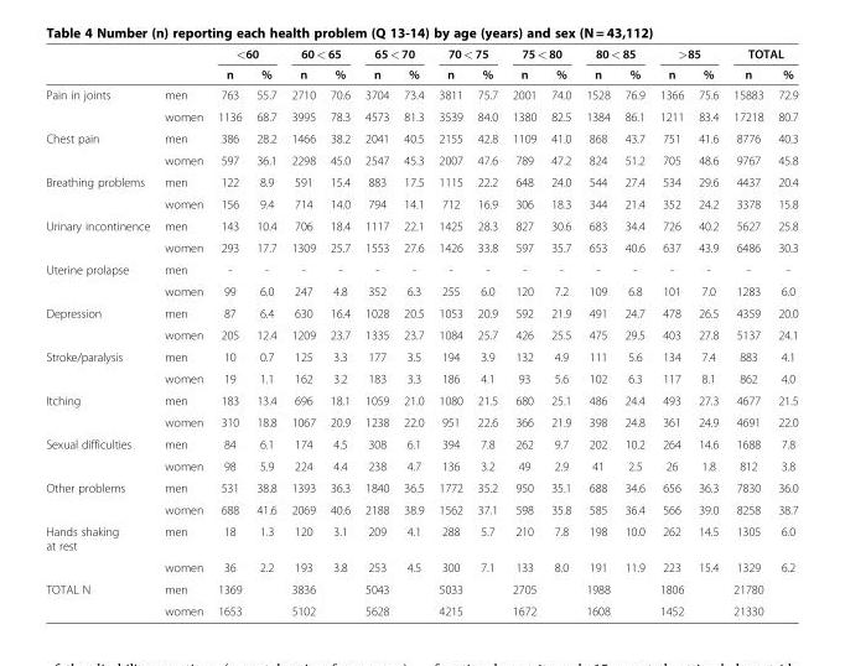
<table><thead><tr><td rowspan="2"></td><td rowspan="2"></td><td colspan="2">&lt;60</td><td colspan="2">60 &lt; 65</td><td colspan="2">65 &lt; 70</td><td colspan="2">70 &lt; 75</td><td colspan="2">75 &lt; 80</td><td colspan="2">80 &lt; 85</td><td colspan="2">&gt;85</td><td colspan="2">TOTAL</td></tr><tr><td>n</td><td>%</td><td>n</td><td>%</td><td>n</td><td>%</td><td>n</td><td>%</td><td>n</td><td>%</td><td>n</td><td>%</td><td>n</td><td>%</td><td>n</td><td>%</td></tr></thead><tbody><tr><td rowspan="2">Pain in joints</td><td>men</td><td>763</td><td>55.7</td><td>2710</td><td>70.6</td><td>3704</td><td>73.4</td><td>3811</td><td>75.7</td><td>2001</td><td>74.0</td><td>1528</td><td>76.9</td><td>1366</td><td>75.6</td><td>15883</td><td>72.9</td></tr><tr><td>women</td><td>1136</td><td>68.7</td><td>3995</td><td>78.3</td><td>4573</td><td>81.3</td><td>3539</td><td>84.0</td><td>1380</td><td>82.5</td><td>1384</td><td>86.1</td><td>1211</td><td>83.4</td><td>17218</td><td>80.7</td></tr><tr><td rowspan="2">Chest pain</td><td>men</td><td>386</td><td>28.2</td><td>1466</td><td>38.2</td><td>2041</td><td>40.5</td><td>2155</td><td>42.8</td><td>1109</td><td>41.0</td><td>868</td><td>43.7</td><td>751</td><td>41.6</td><td>8776</td><td>40.3</td></tr><tr><td>women</td><td>597</td><td>36.1</td><td>2298</td><td>45.0</td><td>2547</td><td>45.3</td><td>2007</td><td>47.6</td><td>789</td><td>47.2</td><td>824</td><td>51.2</td><td>705</td><td>48.6</td><td>9767</td><td>45.8</td></tr><tr><td rowspan="2">Breathing problems</td><td>men</td><td>122</td><td>8.9</td><td>591</td><td>15.4</td><td>883</td><td>17.5</td><td>1115</td><td>22.2</td><td>648</td><td>24.0</td><td>544</td><td>27.4</td><td>534</td><td>29.6</td><td>4437</td><td>20.4</td></tr><tr><td>women</td><td>156</td><td>9.4</td><td>714</td><td>14.0</td><td>794</td><td>14.1</td><td>712</td><td>16.9</td><td>306</td><td>18.3</td><td>344</td><td>21.4</td><td>352</td><td>24.2</td><td>3378</td><td>15.8</td></tr><tr><td rowspan="2">Urinary incontinence</td><td>men</td><td>143</td><td>10.4</td><td>706</td><td>18.4</td><td>1117</td><td>22.1</td><td>1425</td><td>28.3</td><td>827</td><td>30.6</td><td>683</td><td>34.4</td><td>726</td><td>40.2</td><td>5627</td><td>25.8</td></tr><tr><td>women</td><td>293</td><td>17.7</td><td>1309</td><td>25.7</td><td>1553</td><td>27.6</td><td>1426</td><td>33.8</td><td>597</td><td>35.7</td><td>653</td><td>40.6</td><td>637</td><td>43.9</td><td>6486</td><td>30.3</td></tr><tr><td rowspan="2">Uterine prolapse</td><td>men</td><td>-</td><td>-</td><td>-</td><td>-</td><td>-</td><td>-</td><td>-</td><td>-</td><td>-</td><td>-</td><td>-</td><td>-</td><td>-</td><td>-</td><td>-</td><td>-</td></tr><tr><td>women</td><td>99</td><td>6.0</td><td>247</td><td>4.8</td><td>352</td><td>6.3</td><td>255</td><td>6.0</td><td>120</td><td>7.2</td><td>109</td><td>6.8</td><td>101</td><td>7.0</td><td>1283</td><td>6.0</td></tr><tr><td rowspan="2">Depression</td><td>men</td><td>87</td><td>6.4</td><td>630</td><td>16.4</td><td>1028</td><td>20.5</td><td>1053</td><td>20.9</td><td>592</td><td>21.9</td><td>491</td><td>24.7</td><td>478</td><td>26.5</td><td>4359</td><td>20.0</td></tr><tr><td>women</td><td>205</td><td>12.4</td><td>1209</td><td>23.7</td><td>1335</td><td>23.7</td><td>1084</td><td>25.7</td><td>426</td><td>25.5</td><td>475</td><td>29.5</td><td>403</td><td>27.8</td><td>5137</td><td>24.1</td></tr><tr><td rowspan="2">Stroke/paralysis</td><td>men</td><td>10</td><td>0.7</td><td>125</td><td>3.3</td><td>177</td><td>3.5</td><td>194</td><td>3.9</td><td>132</td><td>4.9</td><td>111</td><td>5.6</td><td>134</td><td>7.4</td><td>883</td><td>4.1</td></tr><tr><td>women</td><td>19</td><td>1.1</td><td>162</td><td>3.2</td><td>183</td><td>3.3</td><td>186</td><td>4.1</td><td>93</td><td>5.6</td><td>102</td><td>6.3</td><td>117</td><td>8.1</td><td>862</td><td>4.0</td></tr><tr><td rowspan="2">Itching</td><td>men</td><td>183</td><td>13.4</td><td>696</td><td>18.1</td><td>1059</td><td>21.0</td><td>1080</td><td>21.5</td><td>680</td><td>25.1</td><td>486</td><td>24.4</td><td>493</td><td>27.3</td><td>4677</td><td>21.5</td></tr><tr><td>women</td><td>310</td><td>18.8</td><td>1067</td><td>20.9</td><td>1238</td><td>22.0</td><td>951</td><td>22.6</td><td>366</td><td>21.9</td><td>398</td><td>24.8</td><td>361</td><td>24.9</td><td>4691</td><td>22.0</td></tr><tr><td rowspan="2">Sexual difficulties</td><td>men</td><td>84</td><td>6.1</td><td>174</td><td>4.5</td><td>308</td><td>6.1</td><td>394</td><td>7.8</td><td>262</td><td>9.7</td><td>202</td><td>10.2</td><td>264</td><td>14.6</td><td>1688</td><td>7.8</td></tr><tr><td>women</td><td>98</td><td>5.9</td><td>224</td><td>4.4</td><td>238</td><td>4.7</td><td>136</td><td>3.2</td><td>49</td><td>2.9</td><td>41</td><td>2.5</td><td>26</td><td>1.8</td><td>812</td><td>3.8</td></tr><tr><td rowspan="2">Other problems</td><td>men</td><td>531</td><td>38.8</td><td>1393</td><td>36.3</td><td>1840</td><td>36.5</td><td>1772</td><td>35.2</td><td>950</td><td>35.1</td><td>688</td><td>34.6</td><td>656</td><td>36.3</td><td>7830</td><td>36.0</td></tr><tr><td>women</td><td>688</td><td>41.6</td><td>2069</td><td>40.6</td><td>2188</td><td>38.9</td><td>1562</td><td>37.1</td><td>598</td><td>35.8</td><td>585</td><td>36.4</td><td>566</td><td>39.0</td><td>8258</td><td>38.7</td></tr><tr><td rowspan="2">Hands shaking at rest</td><td>men</td><td>18</td><td>1.3</td><td>120</td><td>3.1</td><td>209</td><td>4.1</td><td>288</td><td>5.7</td><td>210</td><td>7.8</td><td>198</td><td>10.0</td><td>262</td><td>14.5</td><td>1305</td><td>6.0</td></tr><tr><td>women</td><td>36</td><td>2.2</td><td>193</td><td>3.8</td><td>253</td><td>4.5</td><td>300</td><td>7.1</td><td>133</td><td>8.0</td><td>191</td><td>11.9</td><td>223</td><td>15.4</td><td>1329</td><td>6.2</td></tr><tr><td rowspan="2">TOTAL N</td><td>men</td><td>1369</td><td></td><td>3836</td><td></td><td>5043</td><td></td><td>5033</td><td></td><td>2705</td><td></td><td>1988</td><td></td><td>1806</td><td></td><td>21780</td><td></td></tr><tr><td>women</td><td>1653</td><td></td><td>5102</td><td></td><td>5628</td><td></td><td>4215</td><td></td><td>1672</td><td></td><td>1608</td><td></td><td>1452</td><td></td><td>21330</td><td></td></tr></tbody></table>